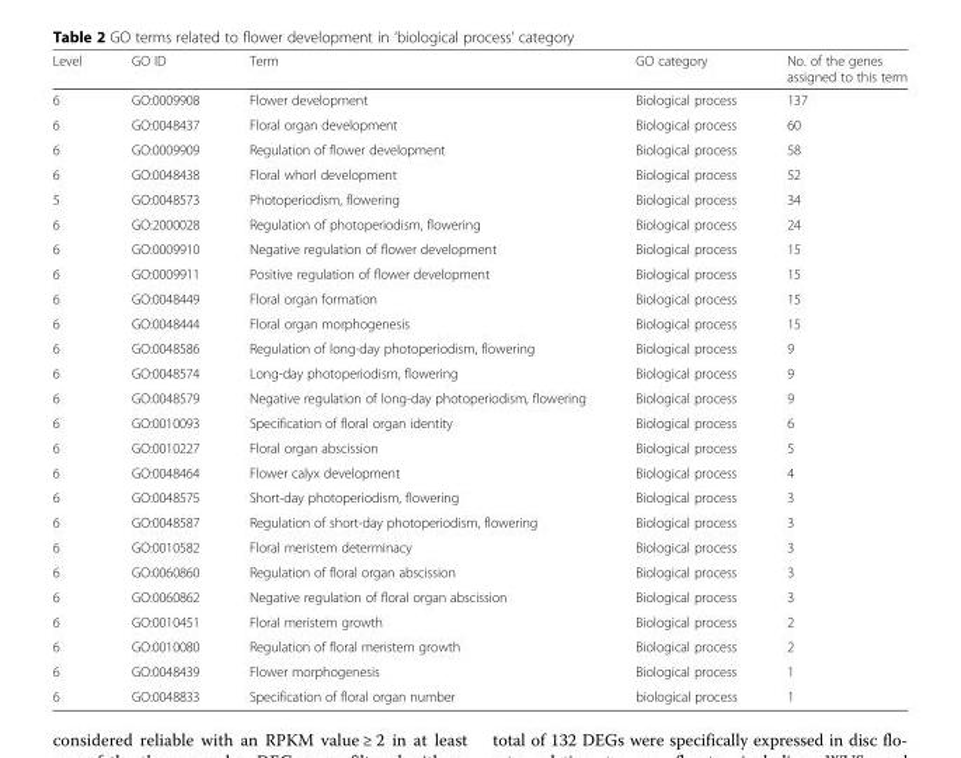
<table><thead><tr><td>Level</td><td>GO ID</td><td>Term</td><td>GO category</td><td>No. of the genes assigned to this term</td></tr></thead><tbody><tr><td>6</td><td>GO:0009908</td><td>Flower development</td><td>Biological process</td><td>137</td></tr><tr><td>6</td><td>GO:0048437</td><td>Floral organ development</td><td>Biological process</td><td>60</td></tr><tr><td>6</td><td>GO:0009909</td><td>Regulation of flower development</td><td>Biological process</td><td>58</td></tr><tr><td>6</td><td>GO:0048438</td><td>Floral whorl development</td><td>Biological process</td><td>52</td></tr><tr><td>5</td><td>GO:0048573</td><td>Photoperiodism, flowering</td><td>Biological process</td><td>34</td></tr><tr><td>6</td><td>GO:2000028</td><td>Regulation of photoperiodism, flowering</td><td>Biological process</td><td>24</td></tr><tr><td>6</td><td>GO:0009910</td><td>Negative regulation of flower development</td><td>Biological process</td><td>15</td></tr><tr><td>6</td><td>GO:0009911</td><td>Positive regulation of flower development</td><td>Biological process</td><td>15</td></tr><tr><td>6</td><td>GO:0048449</td><td>Floral organ formation</td><td>Biological process</td><td>15</td></tr><tr><td>6</td><td>GO:0048444</td><td>Floral organ morphogenesis</td><td>Biological process</td><td>15</td></tr><tr><td>6</td><td>GO:0048586</td><td>Regulation of long-day photoperiodism, flowering</td><td>Biological process</td><td>9</td></tr><tr><td>6</td><td>GO:0048574</td><td>Long-day photoperiodism, flowering</td><td>Biological process</td><td>9</td></tr><tr><td>6</td><td>GO:0048579</td><td>Negative regulation of long-day photoperiodism, flowering</td><td>Biological process</td><td>9</td></tr><tr><td>6</td><td>GO:0010093</td><td>Specification of floral organ identity</td><td>Biological process</td><td>6</td></tr><tr><td>6</td><td>GO:0010227</td><td>Floral organ abscission</td><td>Biological process</td><td>5</td></tr><tr><td>6</td><td>GO:0048464</td><td>Flower calyx development</td><td>Biological process</td><td>4</td></tr><tr><td>6</td><td>GO:0048575</td><td>Short-day photoperiodism, flowering</td><td>Biological process</td><td>3</td></tr><tr><td>6</td><td>GO:0048587</td><td>Regulation of short-day photoperiodism, flowering</td><td>Biological process</td><td>3</td></tr><tr><td>6</td><td>GO:0010582</td><td>Floral meristem determinacy</td><td>Biological process</td><td>3</td></tr><tr><td>6</td><td>GO:0060860</td><td>Regulation of floral organ abscission</td><td>Biological process</td><td>3</td></tr><tr><td>6</td><td>GO:0060862</td><td>Negative regulation of floral organ abscission</td><td>Biological process</td><td>3</td></tr><tr><td>6</td><td>GO:0010451</td><td>Floral meristem growth</td><td>Biological process</td><td>2</td></tr><tr><td>6</td><td>GO:0010080</td><td>Regulation of floral meristem growth</td><td>Biological process</td><td>2</td></tr><tr><td>6</td><td>GO:0048439</td><td>Flower morphogenesis</td><td>Biological process</td><td>1</td></tr><tr><td>6</td><td>GO:0048833</td><td>Specification of floral organ number</td><td>biological process</td><td>1</td></tr></tbody></table>